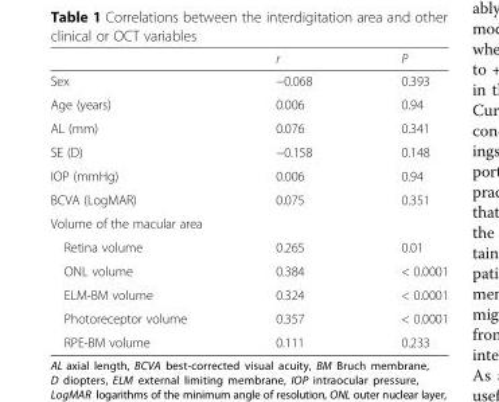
<table><thead><tr><td></td><td>r</td><td>P</td></tr></thead><tbody><tr><td>Sex</td><td>−0.068</td><td>0.393</td></tr><tr><td>Age (years)</td><td>0.006</td><td>0.94</td></tr><tr><td>AL (mm)</td><td>0.076</td><td>0.341</td></tr><tr><td>SE (D)</td><td>−0.158</td><td>0.148</td></tr><tr><td>IOP (mmHg)</td><td>0.006</td><td>0.94</td></tr><tr><td>BCVA (LogMAR)</td><td>0.075</td><td>0.351</td></tr><tr><td colspan="3">Volume of the macular area</td></tr><tr><td>Retina volume</td><td>0.265</td><td>0.01</td></tr><tr><td>ONL volume</td><td>0.384</td><td>&lt; 0.0001</td></tr><tr><td>ELM-BM volume</td><td>0.324</td><td>&lt; 0.0001</td></tr><tr><td>Photoreceptor volume</td><td>0.357</td><td>&lt; 0.0001</td></tr><tr><td>RPE-BM volume</td><td>0.111</td><td>0.233</td></tr></tbody></table>